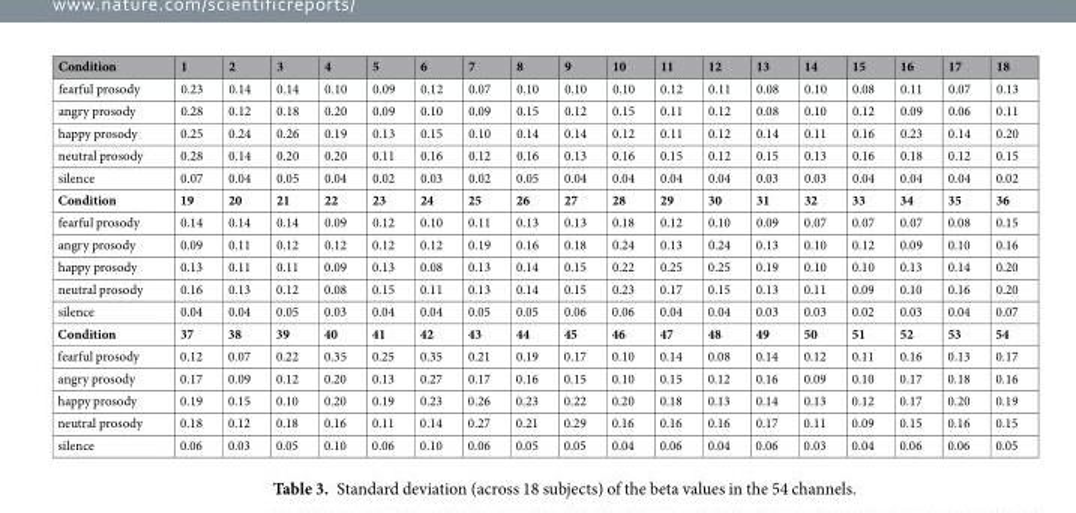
<table><thead><tr><td>Condition</td><td>1</td><td>2</td><td>3</td><td>4</td><td>5</td><td>6</td><td>7</td><td>8</td><td>9</td><td>10</td><td>11</td><td>12</td><td>13</td><td>14</td><td>15</td><td>16</td><td>17</td><td>18</td></tr></thead><tbody><tr><td>fearful prosody</td><td>0.23</td><td>0.14</td><td>0.14</td><td>0.10</td><td>0.09</td><td>0.12</td><td>0.07</td><td>0.10</td><td>0.10</td><td>0.10</td><td>0.12</td><td>0.11</td><td>0.08</td><td>0.10</td><td>0.08</td><td>0.11</td><td>0.07</td><td>0.13</td></tr><tr><td>angry prosody</td><td>0.28</td><td>0.12</td><td>0.18</td><td>0.20</td><td>0.09</td><td>0.10</td><td>0.09</td><td>0.15</td><td>0.12</td><td>0.15</td><td>0.11</td><td>0.12</td><td>0.08</td><td>0.10</td><td>0.12</td><td>0.09</td><td>0.06</td><td>0.11</td></tr><tr><td>happy prosody</td><td>0.25</td><td>0.24</td><td>0.26</td><td>0.19</td><td>0.13</td><td>0.15</td><td>0.10</td><td>0.14</td><td>0.14</td><td>0.12</td><td>0.11</td><td>0.12</td><td>0.14</td><td>0.11</td><td>0.16</td><td>0.23</td><td>0.14</td><td>0.20</td></tr><tr><td>neutral prosody</td><td>0.28</td><td>0.14</td><td>0.20</td><td>0.20</td><td>0.11</td><td>0.16</td><td>0.12</td><td>0.16</td><td>0.13</td><td>0.16</td><td>0.15</td><td>0.12</td><td>0.15</td><td>0.13</td><td>0.16</td><td>0.18</td><td>0.12</td><td>0.15</td></tr><tr><td>silence</td><td>0.07</td><td>0.04</td><td>0.05</td><td>0.04</td><td>0.02</td><td>0.03</td><td>0.02</td><td>0.05</td><td>0.04</td><td>0.04</td><td>0.04</td><td>0.04</td><td>0.03</td><td>0.03</td><td>0.04</td><td>0.04</td><td>0.04</td><td>0.02</td></tr><tr><td>Condition</td><td>19</td><td>20</td><td>21</td><td>22</td><td>23</td><td>24</td><td>25</td><td>26</td><td>27</td><td>28</td><td>29</td><td>30</td><td>31</td><td>32</td><td>33</td><td>34</td><td>35</td><td>36</td></tr><tr><td>fearful prosody</td><td>0.14</td><td>0.14</td><td>0.14</td><td>0.09</td><td>0.12</td><td>0.10</td><td>0.11</td><td>0.13</td><td>0.13</td><td>0.18</td><td>0.12</td><td>0.10</td><td>0.09</td><td>0.07</td><td>0.07</td><td>0.07</td><td>0.08</td><td>0.15</td></tr><tr><td>angry prosody</td><td>0.09</td><td>0.11</td><td>0.12</td><td>0.12</td><td>0.12</td><td>0.12</td><td>0.19</td><td>0.16</td><td>0.18</td><td>0.24</td><td>0.13</td><td>0.24</td><td>0.13</td><td>0.10</td><td>0.12</td><td>0.09</td><td>0.10</td><td>0.16</td></tr><tr><td>happy prosody</td><td>0.13</td><td>0.11</td><td>0.11</td><td>0.09</td><td>0.13</td><td>0.08</td><td>0.13</td><td>0.14</td><td>0.15</td><td>0.22</td><td>0.25</td><td>0.25</td><td>0.19</td><td>0.10</td><td>0.10</td><td>0.13</td><td>0.14</td><td>0.20</td></tr><tr><td>neutral prosody</td><td>0.16</td><td>0.13</td><td>0.12</td><td>0.08</td><td>0.15</td><td>0.11</td><td>0.13</td><td>0.14</td><td>0.15</td><td>0.23</td><td>0.17</td><td>0.15</td><td>0.13</td><td>0.11</td><td>0.09</td><td>0.10</td><td>0.16</td><td>0.20</td></tr><tr><td>silence</td><td>0.04</td><td>0.04</td><td>0.05</td><td>0.03</td><td>0.04</td><td>0.04</td><td>0.05</td><td>0.05</td><td>0.06</td><td>0.06</td><td>0.04</td><td>0.04</td><td>0.03</td><td>0.03</td><td>0.02</td><td>0.03</td><td>0.04</td><td>0.07</td></tr><tr><td>Condition</td><td>37</td><td>38</td><td>39</td><td>40</td><td>41</td><td>42</td><td>43</td><td>44</td><td>45</td><td>46</td><td>47</td><td>48</td><td>49</td><td>50</td><td>51</td><td>52</td><td>53</td><td>54</td></tr><tr><td>fearful prosody</td><td>0.12</td><td>0.07</td><td>0.22</td><td>0.35</td><td>0.25</td><td>0.35</td><td>0.21</td><td>0.19</td><td>0.17</td><td>0.10</td><td>0.14</td><td>0.08</td><td>0.14</td><td>0.12</td><td>0.11</td><td>0.16</td><td>0.13</td><td>0.17</td></tr><tr><td>angry prosody</td><td>0.17</td><td>0.09</td><td>0.12</td><td>0.20</td><td>0.13</td><td>0.27</td><td>0.17</td><td>0.16</td><td>0.15</td><td>0.10</td><td>0.15</td><td>0.12</td><td>0.16</td><td>0.09</td><td>0.10</td><td>0.17</td><td>0.18</td><td>0.16</td></tr><tr><td>happy prosody</td><td>0.19</td><td>0.15</td><td>0.10</td><td>0.20</td><td>0.19</td><td>0.23</td><td>0.26</td><td>0.23</td><td>0.22</td><td>0.20</td><td>0.18</td><td>0.13</td><td>0.14</td><td>0.13</td><td>0.12</td><td>0.17</td><td>0.20</td><td>0.19</td></tr><tr><td>neutral prosody</td><td>0.18</td><td>0.12</td><td>0.18</td><td>0.16</td><td>0.11</td><td>0.14</td><td>0.27</td><td>0.21</td><td>0.29</td><td>0.16</td><td>0.16</td><td>0.16</td><td>0.17</td><td>0.11</td><td>0.09</td><td>0.15</td><td>0.16</td><td>0.15</td></tr><tr><td>silence</td><td>0.06</td><td>0.03</td><td>0.05</td><td>0.10</td><td>0.06</td><td>0.10</td><td>0.06</td><td>0.05</td><td>0.05</td><td>0.04</td><td>0.06</td><td>0.04</td><td>0.06</td><td>0.03</td><td>0.04</td><td>0.06</td><td>0.06</td><td>0.05</td></tr></tbody></table>